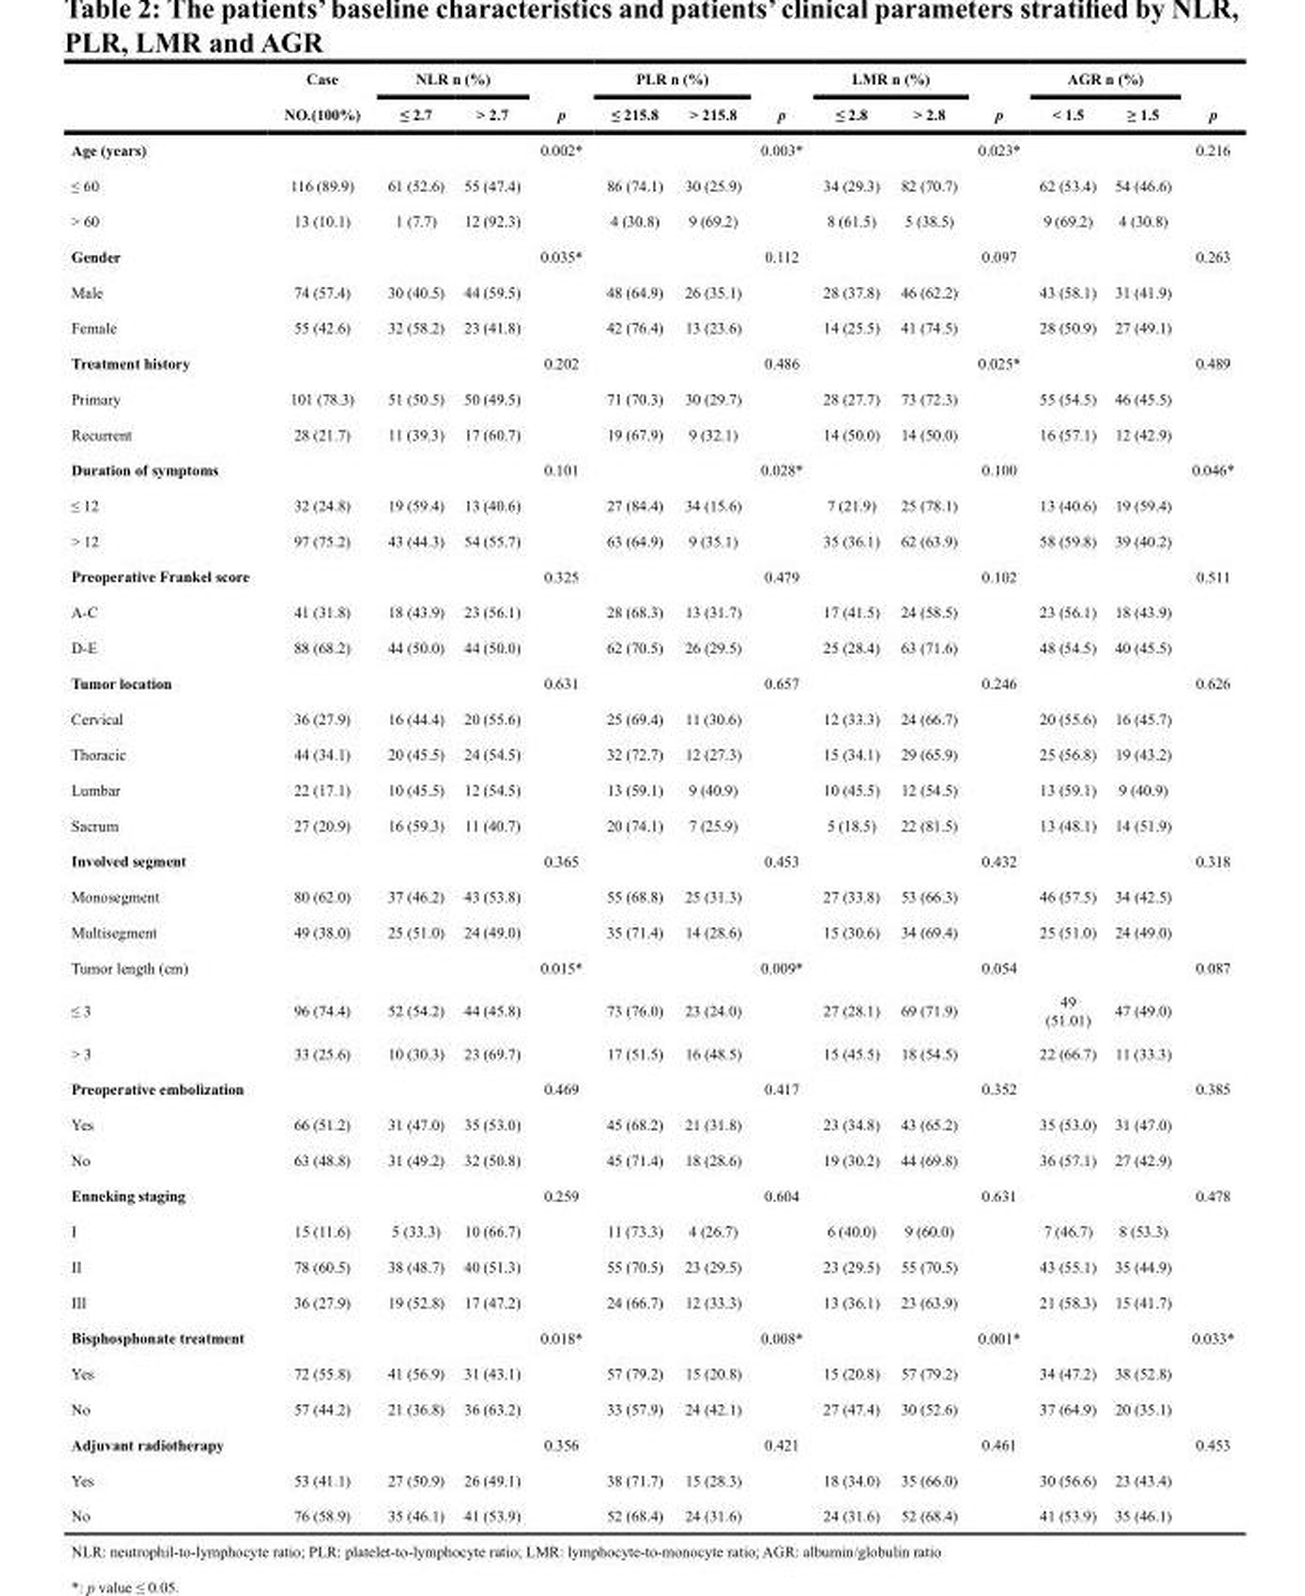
<table><thead><tr><td rowspan="2"></td><td rowspan="2">Case NO.(100%)</td><td colspan="2">NLR n (%)</td><td rowspan="2">p</td><td colspan="2">PLR n (%)</td><td rowspan="2">p</td><td colspan="2">LMR n (%)</td><td rowspan="2">p</td><td colspan="2">AGR n (%)</td><td rowspan="2">p</td></tr><tr><td>≤ 2.7</td><td>&gt; 2.7</td><td>≤ 215.8</td><td>&gt; 215.8</td><td>≤ 2.8</td><td>&gt; 2.8</td><td>&lt; 1.5</td><td>≥ 1.5</td></tr></thead><tbody><tr><td>Age (years)</td><td></td><td></td><td></td><td>0.002*</td><td></td><td></td><td>0.003*</td><td></td><td></td><td>0.023*</td><td></td><td></td><td>0.216</td></tr><tr><td>≤ 60</td><td>116 (89.9)</td><td>61 (52.6)</td><td>55 (47.4)</td><td></td><td>86 (74.1)</td><td>30 (25.9)</td><td></td><td>34 (29.3)</td><td>82 (70.7)</td><td></td><td>62 (53.4)</td><td>54 (46.6)</td><td></td></tr><tr><td>&gt; 60</td><td>13 (10.1)</td><td>1 (7.7)</td><td>12 (92.3)</td><td></td><td>4 (30.8)</td><td>9 (69.2)</td><td></td><td>8 (61.5)</td><td>5 (38.5)</td><td></td><td>9 (69.2)</td><td>4 (30.8)</td><td></td></tr><tr><td>Gender</td><td></td><td></td><td></td><td>0.035*</td><td></td><td></td><td>0.112</td><td></td><td></td><td>0.097</td><td></td><td></td><td>0.263</td></tr><tr><td>Male</td><td>74 (57.4)</td><td>30 (40.5)</td><td>44 (59.5)</td><td></td><td>48 (64.9)</td><td>26 (35.1)</td><td></td><td>28 (37.8)</td><td>46 (62.2)</td><td></td><td>43 (58.1)</td><td>31 (41.9)</td><td></td></tr><tr><td>Female</td><td>55 (42.6)</td><td>32 (58.2)</td><td>23 (41.8)</td><td></td><td>42 (76.4)</td><td>13 (23.6)</td><td></td><td>14 (25.5)</td><td>41 (74.5)</td><td></td><td>28 (50.9)</td><td>27 (49.1)</td><td></td></tr><tr><td>Treatment history</td><td></td><td></td><td></td><td>0.202</td><td></td><td></td><td>0.486</td><td></td><td></td><td>0.025*</td><td></td><td></td><td>0.489</td></tr><tr><td>Primary</td><td>101 (78.3)</td><td>51 (50.5)</td><td>50 (49.5)</td><td></td><td>71 (70.3)</td><td>30 (29.7)</td><td></td><td>28 (27.7)</td><td>73 (72.3)</td><td></td><td>55 (54.5)</td><td>46 (45.5)</td><td></td></tr><tr><td>Recurrent</td><td>28 (21.7)</td><td>11 (39.3)</td><td>17 (60.7)</td><td></td><td>19 (67.9)</td><td>9 (32.1)</td><td></td><td>14 (50.0)</td><td>14 (50.0)</td><td></td><td>16 (57.1)</td><td>12 (42.9)</td><td></td></tr><tr><td>Duration of symptoms</td><td></td><td></td><td></td><td>0.101</td><td></td><td></td><td>0.028*</td><td></td><td></td><td>0.100</td><td></td><td></td><td>0.046*</td></tr><tr><td>≤ 12</td><td>32 (24.8)</td><td>19 (59.4)</td><td>13 (40.6)</td><td></td><td>27 (84.4)</td><td>34 (15.6)</td><td></td><td>7 (21.9)</td><td>25 (78.1)</td><td></td><td>13 (40.6)</td><td>19 (59.4)</td><td></td></tr><tr><td>&gt; 12</td><td>97 (75.2)</td><td>43 (44.3)</td><td>54 (55.7)</td><td></td><td>63 (64.9)</td><td>9 (35.1)</td><td></td><td>35 (36.1)</td><td>62 (63.9)</td><td></td><td>58 (59.8)</td><td>39 (40.2)</td><td></td></tr><tr><td>Preoperative Frankel score</td><td></td><td></td><td></td><td>0.325</td><td></td><td></td><td>0.479</td><td></td><td></td><td>0.102</td><td></td><td></td><td>0.511</td></tr><tr><td>A-C</td><td>41 (31.8)</td><td>18 (43.9)</td><td>23 (56.1)</td><td></td><td>28 (68.3)</td><td>13 (31.7)</td><td></td><td>17 (41.5)</td><td>24 (58.5)</td><td></td><td>23 (56.1)</td><td>18 (43.9)</td><td></td></tr><tr><td>D-E</td><td>88 (68.2)</td><td>44 (50.0)</td><td>44 (50.0)</td><td></td><td>62 (70.5)</td><td>26 (29.5)</td><td></td><td>25 (28.4)</td><td>63 (71.6)</td><td></td><td>48 (54.5)</td><td>40 (45.5)</td><td></td></tr><tr><td>Tumor location</td><td></td><td></td><td></td><td>0.631</td><td></td><td></td><td>0.657</td><td></td><td></td><td>0.246</td><td></td><td></td><td>0.626</td></tr><tr><td>Cervical</td><td>36 (27.9)</td><td>16 (44.4)</td><td>20 (55.6)</td><td></td><td>25 (69.4)</td><td>11 (30.6)</td><td></td><td>12 (33.3)</td><td>24 (66.7)</td><td></td><td>20 (55.6)</td><td>16 (45.7)</td><td></td></tr><tr><td>Thoracic</td><td>44 (34.1)</td><td>20 (45.5)</td><td>24 (54.5)</td><td></td><td>32 (72.7)</td><td>12 (27.3)</td><td></td><td>15 (34.1)</td><td>29 (65.9)</td><td></td><td>25 (56.8)</td><td>19 (43.2)</td><td></td></tr><tr><td>Lumbar</td><td>22 (17.1)</td><td>10 (45.5)</td><td>12 (54.5)</td><td></td><td>13 (59.1)</td><td>9 (40.9)</td><td></td><td>10 (45.5)</td><td>12 (54.5)</td><td></td><td>13 (59.1)</td><td>9 (40.9)</td><td></td></tr><tr><td>Sacrum</td><td>27 (20.9)</td><td>16 (59.3)</td><td>11 (40.7)</td><td></td><td>20 (74.1)</td><td>7 (25.9)</td><td></td><td>5 (18.5)</td><td>22 (81.5)</td><td></td><td>13 (48.1)</td><td>14 (51.9)</td><td></td></tr><tr><td>Involved segment</td><td></td><td></td><td></td><td>0.365</td><td></td><td></td><td>0.453</td><td></td><td></td><td>0.432</td><td></td><td></td><td>0.318</td></tr><tr><td>Monosegment</td><td>80 (62.0)</td><td>37 (46.2)</td><td>43 (53.8)</td><td></td><td>55 (68.8)</td><td>25 (31.3)</td><td></td><td>27 (33.8)</td><td>53 (66.3)</td><td></td><td>46 (57.5)</td><td>34 (42.5)</td><td></td></tr><tr><td>Multisegment</td><td>49 (38.0)</td><td>25 (51.0)</td><td>24 (49.0)</td><td></td><td>35 (71.4)</td><td>14 (28.6)</td><td></td><td>15 (30.6)</td><td>34 (69.4)</td><td></td><td>25 (51.0)</td><td>24 (49.0)</td><td></td></tr><tr><td>Tumor length (cm)</td><td></td><td></td><td></td><td>0.015*</td><td></td><td></td><td>0.009*</td><td></td><td></td><td>0.054</td><td></td><td></td><td>0.087</td></tr><tr><td>≤ 3</td><td>96 (74.4)</td><td>52 (54.2)</td><td>44 (45.8)</td><td></td><td>73 (76.0)</td><td>23 (24.0)</td><td></td><td>27 (28.1)</td><td>69 (71.9)</td><td></td><td>49 (51.01)</td><td>47 (49.0)</td><td></td></tr><tr><td>&gt; 3</td><td>33 (25.6)</td><td>10 (30.3)</td><td>23 (69.7)</td><td></td><td>17 (51.5)</td><td>16 (48.5)</td><td></td><td>15 (45.5)</td><td>18 (54.5)</td><td></td><td>22 (66.7)</td><td>11 (33.3)</td><td></td></tr><tr><td>Preoperative embolization</td><td></td><td></td><td></td><td>0.469</td><td></td><td></td><td>0.417</td><td></td><td></td><td>0.352</td><td></td><td></td><td>0.385</td></tr><tr><td>Yes</td><td>66 (51.2)</td><td>31 (47.0)</td><td>35 (53.0)</td><td></td><td>45 (68.2)</td><td>21 (31.8)</td><td></td><td>23 (34.8)</td><td>43 (65.2)</td><td></td><td>35 (53.0)</td><td>31 (47.0)</td><td></td></tr><tr><td>No</td><td>63 (48.8)</td><td>31 (49.2)</td><td>32 (50.8)</td><td></td><td>45 (71.4)</td><td>18 (28.6)</td><td></td><td>19 (30.2)</td><td>44 (69.8)</td><td></td><td>36 (57.1)</td><td>27 (42.9)</td><td></td></tr><tr><td>Enneking staging</td><td></td><td></td><td></td><td>0.259</td><td></td><td></td><td>0.604</td><td></td><td></td><td>0.631</td><td></td><td></td><td>0.478</td></tr><tr><td>I</td><td>15 (11.6)</td><td>5 (33.3)</td><td>10 (66.7)</td><td></td><td>11 (73.3)</td><td>4 (26.7)</td><td></td><td>6 (40.0)</td><td>9 (60.0)</td><td></td><td>7 (46.7)</td><td>8 (53.3)</td><td></td></tr><tr><td>II</td><td>78 (60.5)</td><td>38 (48.7)</td><td>40 (51.3)</td><td></td><td>55 (70.5)</td><td>23 (29.5)</td><td></td><td>23 (29.5)</td><td>55 (70.5)</td><td></td><td>43 (55.1)</td><td>35 (44.9)</td><td></td></tr><tr><td>III</td><td>36 (27.9)</td><td>19 (52.8)</td><td>17 (47.2)</td><td></td><td>24 (66.7)</td><td>12 (33.3)</td><td></td><td>13 (36.1)</td><td>23 (63.9)</td><td></td><td>21 (58.3)</td><td>15 (41.7)</td><td></td></tr><tr><td>Bisphosphonate treatment</td><td></td><td></td><td></td><td>0.018*</td><td></td><td></td><td>0.008*</td><td></td><td></td><td>0.001*</td><td></td><td></td><td>0.033*</td></tr><tr><td>Yes</td><td>72 (55.8)</td><td>41 (56.9)</td><td>31 (43.1)</td><td></td><td>57 (79.2)</td><td>15 (20.8)</td><td></td><td>15 (20.8)</td><td>57 (79.2)</td><td></td><td>34 (47.2)</td><td>38 (52.8)</td><td></td></tr><tr><td>No</td><td>57 (44.2)</td><td>21 (36.8)</td><td>36 (63.2)</td><td></td><td>33 (57.9)</td><td>24 (42.1)</td><td></td><td>27 (47.4)</td><td>30 (52.6)</td><td></td><td>37 (64.9)</td><td>20 (35.1)</td><td></td></tr><tr><td>Adjuvant radiotherapy</td><td></td><td></td><td></td><td>0.356</td><td></td><td></td><td>0.421</td><td></td><td></td><td>0.461</td><td></td><td></td><td>0.453</td></tr><tr><td>Yes</td><td>53 (41.1)</td><td>27 (50.9)</td><td>26 (49.1)</td><td></td><td>38 (71.7)</td><td>15 (28.3)</td><td></td><td>18 (34.0)</td><td>35 (66.0)</td><td></td><td>30 (56.6)</td><td>23 (43.4)</td><td></td></tr><tr><td>No</td><td>76 (58.9)</td><td>35 (46.1)</td><td>41 (53.9)</td><td></td><td>52 (68.4)</td><td>24 (31.6)</td><td></td><td>24 (31.6)</td><td>52 (68.4)</td><td></td><td>41 (53.9)</td><td>35 (46.1)</td><td></td></tr></tbody></table>